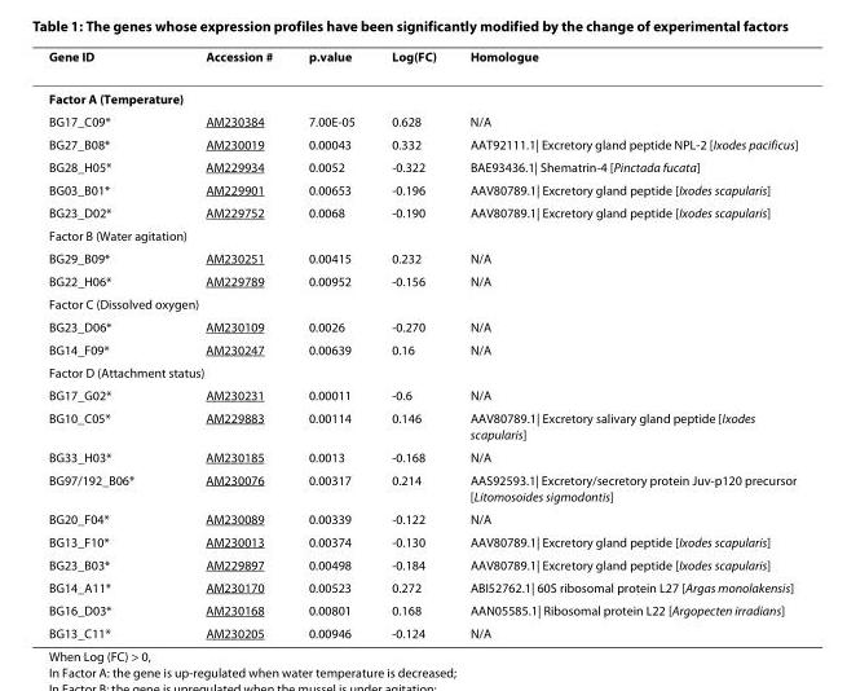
<table><thead><tr><td>Gene ID</td><td>Accession #</td><td>p.value</td><td>Log(FC)</td><td>Homologue</td></tr></thead><tbody><tr><td colspan="5">Factor A (Temperature)</td></tr><tr><td>BG17_C09*</td><td>AM230384</td><td>7.00E-05</td><td>0.628</td><td>N/A</td></tr><tr><td>BG27_B08*</td><td>AM230019</td><td>0.00043</td><td>0.332</td><td>AAT92111.1| Excretory gland peptide NPL-2 [Ixodes pacificus]</td></tr><tr><td>BG28_H05*</td><td>AM229934</td><td>0.0052</td><td>-0.322</td><td>BAE93436.1| Shematrin-4 [Pinctada fucata]</td></tr><tr><td>BG03_B01*</td><td>AM229901</td><td>0.00653</td><td>-0.196</td><td>AAV80789.1| Excretory gland peptide [Ixodes scapularis]</td></tr><tr><td>BG23_D02*</td><td>AM229752</td><td>0.0068</td><td>-0.190</td><td>AAV80789.1| Excretory gland peptide [Ixodes scapularis]</td></tr><tr><td colspan="5">Factor B (Water agitation)</td></tr><tr><td>BG29_B09*</td><td>AM230251</td><td>0.00415</td><td>0.232</td><td>N/A</td></tr><tr><td>BG22_H06*</td><td>AM229789</td><td>0.00952</td><td>-0.156</td><td>N/A</td></tr><tr><td colspan="5">Factor C (Dissolved oxygen)</td></tr><tr><td>BG23_D06*</td><td>AM230109</td><td>0.0026</td><td>-0.270</td><td>N/A</td></tr><tr><td>BG14_F09*</td><td>AM230247</td><td>0.00639</td><td>0.16</td><td>N/A</td></tr><tr><td colspan="5">Factor D (Attachment status)</td></tr><tr><td>BG17_G02*</td><td>AM230231</td><td>0.00011</td><td>-0.6</td><td>N/A</td></tr><tr><td>BG10_C05*</td><td>AM229883</td><td>0.00114</td><td>0.146</td><td>AAV80789.1| Excretory salivary gland peptide [Ixodes scapularis]</td></tr><tr><td>BG33_H03*</td><td>AM230185</td><td>0.0013</td><td>-0.168</td><td>N/A</td></tr><tr><td>BG97/192_B06*</td><td>AM230076</td><td>0.00317</td><td>0.214</td><td>AAS92593.1| Excretory/secretory protein Juv-p120 precursor [Litomosoides sigmodontis]</td></tr><tr><td>BG20_F04*</td><td>AM230089</td><td>0.00339</td><td>-0.122</td><td>N/A</td></tr><tr><td>BG13_F10*</td><td>AM230013</td><td>0.00374</td><td>-0.130</td><td>AAV80789.1| Excretory gland peptide [Ixodes scapularis]</td></tr><tr><td>BG23_B03*</td><td>AM229897</td><td>0.00498</td><td>-0.184</td><td>AAV80789.1| Excretory gland peptide [Ixodes scapularis]</td></tr><tr><td>BG14_A11*</td><td>AM230170</td><td>0.00523</td><td>0.272</td><td>ABI52762.1| 60S ribosomal protein L27 [Argas monolakensis]</td></tr><tr><td>BG16_D03*</td><td>AM230168</td><td>0.00801</td><td>0.168</td><td>AAN05585.1| Ribosomal protein L22 [Argopecten irradians]</td></tr><tr><td>BG13_C11*</td><td>AM230205</td><td>0.00946</td><td>-0.124</td><td>N/A</td></tr></tbody></table>